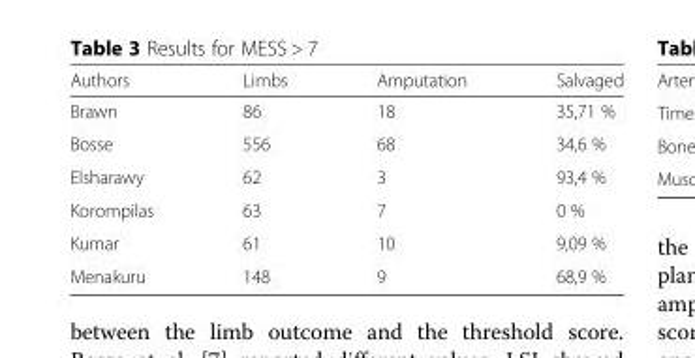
<table><thead><tr><td>Authors</td><td>Limbs</td><td>Amputation</td><td>Salvaged</td></tr></thead><tbody><tr><td>Brawn</td><td>86</td><td>18</td><td>35,71 %</td></tr><tr><td>Bosse</td><td>556</td><td>68</td><td>34,6 %</td></tr><tr><td>Elsharawy</td><td>62</td><td>3</td><td>93,4 %</td></tr><tr><td>Korompilas</td><td>63</td><td>7</td><td>0 %</td></tr><tr><td>Kumar</td><td>61</td><td>10</td><td>9,09 %</td></tr><tr><td>Menakuru</td><td>148</td><td>9</td><td>68,9 %</td></tr></tbody></table>